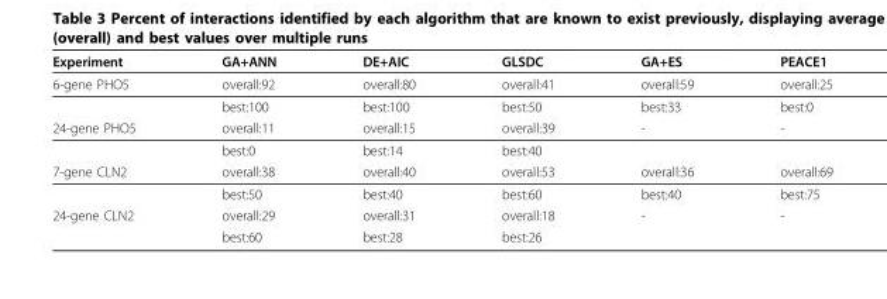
<table><thead><tr><td>Experiment</td><td>GA+ANN</td><td>DE+AIC</td><td>GLSDC</td><td>GA+ES</td><td>PEACE1</td></tr></thead><tbody><tr><td rowspan="2">6-gene PHO5</td><td>overall:92</td><td>overall:80</td><td>overall:41</td><td>overall:59</td><td>overall:25</td></tr><tr><td>best:100</td><td>best:100</td><td>best:50</td><td>best:33</td><td>best:0</td></tr><tr><td rowspan="2">24-gene PHO5</td><td>overall:11</td><td>overall:15</td><td>overall:39</td><td>-</td><td>-</td></tr><tr><td>best:0</td><td>best:14</td><td>best:40</td><td></td><td></td></tr><tr><td rowspan="2">7-gene CLN2</td><td>overall:38</td><td>overall:40</td><td>overall:53</td><td>overall:36</td><td>overall:69</td></tr><tr><td>best:50</td><td>best:40</td><td>best:60</td><td>best:40</td><td>best:75</td></tr><tr><td rowspan="2">24-gene CLN2</td><td>overall:29</td><td>overall:31</td><td>overall:18</td><td>-</td><td>-</td></tr><tr><td>best:60</td><td>best:28</td><td>best:26</td><td></td><td></td></tr></tbody></table>